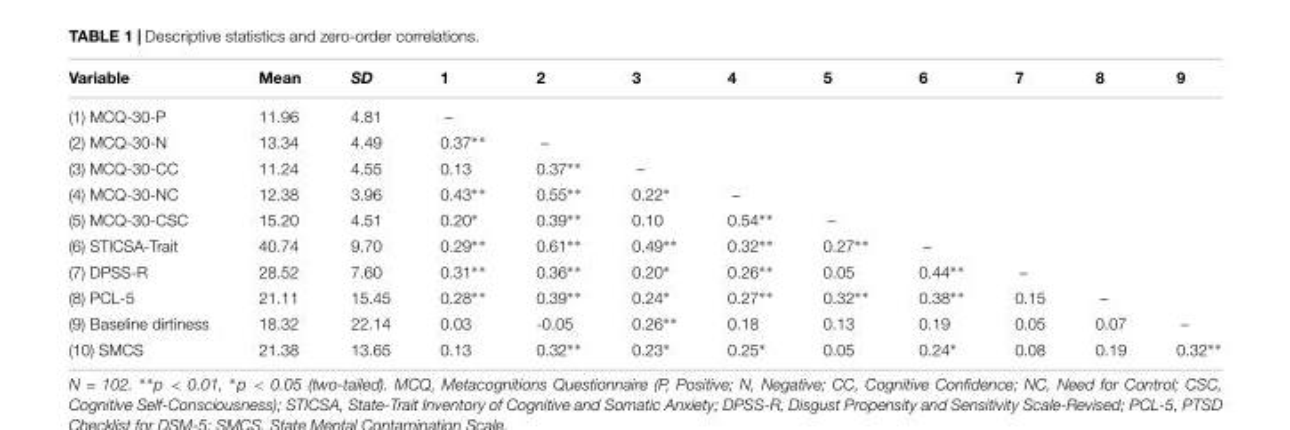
<table><thead><tr><td>Variable</td><td>Mean</td><td>SD</td><td>1</td><td>2</td><td>3</td><td>4</td><td>5</td><td>6</td><td>7</td><td>8</td><td>9</td></tr></thead><tbody><tr><td>(1) MCQ-30-P</td><td>11.96</td><td>4.81</td><td>–</td><td></td><td></td><td></td><td></td><td></td><td></td><td></td><td></td></tr><tr><td>(2) MCQ-30-N</td><td>13.34</td><td>4.49</td><td>0.37∗∗</td><td>–</td><td></td><td></td><td></td><td></td><td></td><td></td><td></td></tr><tr><td>(3) MCQ-30-CC</td><td>11.24</td><td>4.55</td><td>0.13</td><td>0.37∗∗</td><td>–</td><td></td><td></td><td></td><td></td><td></td><td></td></tr><tr><td>(4) MCQ-30-NC</td><td>12.38</td><td>3.96</td><td>0.43∗∗</td><td>0.55∗∗</td><td>0.22∗</td><td>–</td><td></td><td></td><td></td><td></td><td></td></tr><tr><td>(5) MCQ-30-CSC</td><td>15.20</td><td>4.51</td><td>0.20∗</td><td>0.39∗∗</td><td>0.10</td><td>0.54∗∗</td><td>–</td><td></td><td></td><td></td><td></td></tr><tr><td>(6) STICSA-Trait</td><td>40.74</td><td>9.70</td><td>0.29∗∗</td><td>0.61∗∗</td><td>0.49∗∗</td><td>0.32∗∗</td><td>0.27∗∗</td><td>–</td><td></td><td></td><td></td></tr><tr><td>(7) DPSS-R</td><td>28.52</td><td>7.60</td><td>0.31∗∗</td><td>0.36∗∗</td><td>0.20∗</td><td>0.26∗∗</td><td>0.05</td><td>0.44∗∗</td><td>–</td><td></td><td></td></tr><tr><td>(8) PCL-5</td><td>21.11</td><td>15.45</td><td>0.28∗∗</td><td>0.39∗∗</td><td>0.24∗</td><td>0.27∗∗</td><td>0.32∗∗</td><td>0.38∗∗</td><td>0.15</td><td>–</td><td></td></tr><tr><td>(9) Baseline dirtiness</td><td>18.32</td><td>22.14</td><td>0.03</td><td>-0.05</td><td>0.26∗∗</td><td>0.18</td><td>0.13</td><td>0.19</td><td>0.05</td><td>0.07</td><td>–</td></tr><tr><td>(10) SMCS</td><td>21.38</td><td>13.65</td><td>0.13</td><td>0.32∗∗</td><td>0.23∗</td><td>0.25∗</td><td>0.05</td><td>0.24∗</td><td>0.08</td><td>0.19</td><td>0.32∗∗</td></tr></tbody></table>